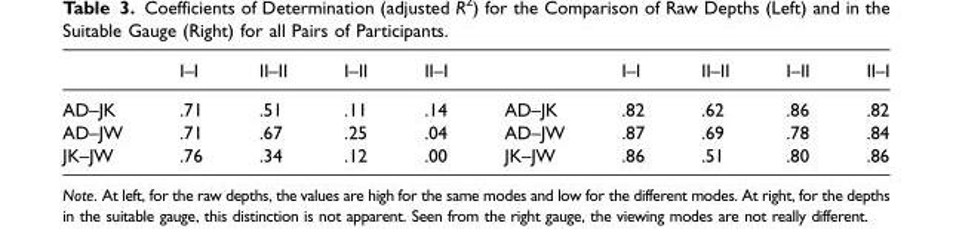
<table><thead><tr><td></td><td>I–I</td><td>II–II</td><td>I–II</td><td>II–I</td><td></td><td>I–I</td><td>II–II</td><td>I–II</td><td>II–I</td></tr></thead><tbody><tr><td>AD–JK</td><td>.71</td><td>.51</td><td>.11</td><td>.14</td><td>AD–JK</td><td>.82</td><td>.62</td><td>.86</td><td>.82</td></tr><tr><td>AD–JW</td><td>.71</td><td>.67</td><td>.25</td><td>.04</td><td>AD–JW</td><td>.87</td><td>.69</td><td>.78</td><td>.84</td></tr><tr><td>JK–JW</td><td>.76</td><td>.34</td><td>.12</td><td>.00</td><td>JK–JW</td><td>.86</td><td>.51</td><td>.80</td><td>.86</td></tr></tbody></table>